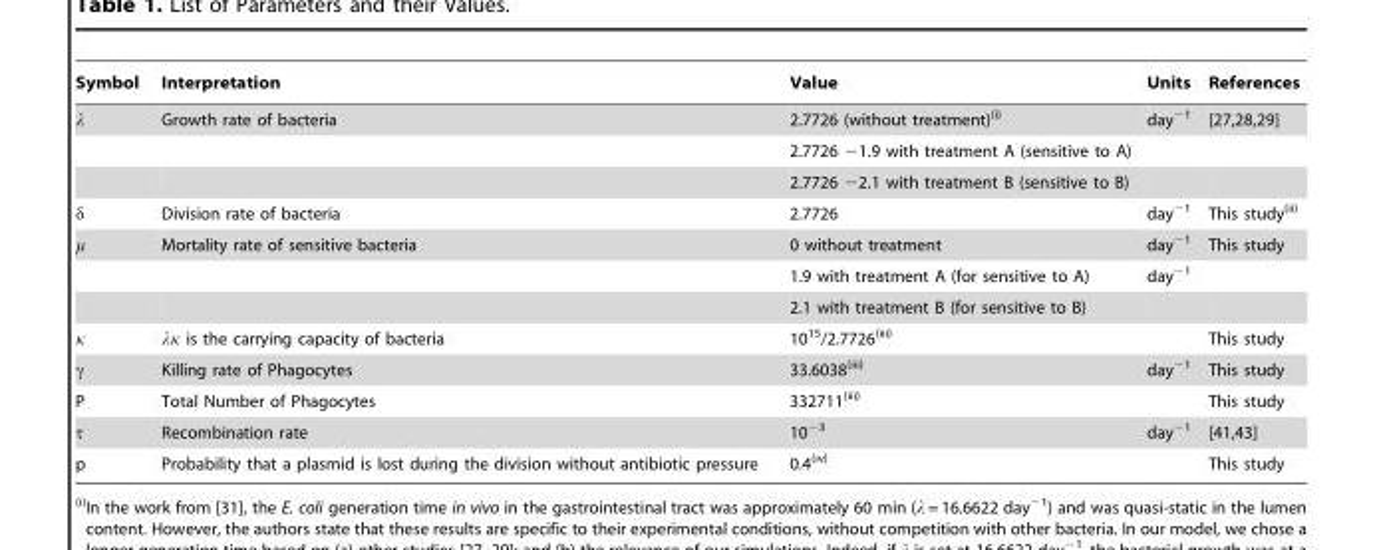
<table><thead><tr><td>Symbol</td><td>Interpretation</td><td>Value</td><td>Units</td><td>References</td></tr></thead><tbody><tr><td rowspan="3">λ</td><td>Growth rate of bacteria</td><td>2.7726 (without treatment)(i)</td><td>day<sup>−1</sup></td><td>[27,28,29]</td></tr><tr><td></td><td>2.7726 −1.9 with treatment A (sensitive to A)</td><td></td><td></td></tr><tr><td></td><td>2.7726 −2.1 with treatment B (sensitive to B)</td><td></td><td></td></tr><tr><td>δ</td><td>Division rate of bacteria</td><td>2.7726</td><td>day<sup>−1</sup></td><td>This study(ii)</td></tr><tr><td rowspan="3">μ</td><td>Mortality rate of sensitive bacteria</td><td>0 without treatment</td><td>day<sup>−1</sup></td><td>This study</td></tr><tr><td></td><td>1.9 with treatment A (for sensitive to A)</td><td>day<sup>−1</sup></td><td></td></tr><tr><td></td><td>2.1 with treatment B (for sensitive to B)</td><td></td><td></td></tr><tr><td>κ</td><td>λκ is the carrying capacity of bacteria</td><td>10<sup>15</sup>/2.7726(iii)</td><td></td><td>This study</td></tr><tr><td>γ</td><td>Killing rate of Phagocytes</td><td>33.6038(iii)</td><td>day<sup>−1</sup></td><td>This study</td></tr><tr><td>P</td><td>Total Number of Phagocytes</td><td>332711(iii)</td><td></td><td>This study</td></tr><tr><td>τ</td><td>Recombination rate</td><td>10<sup>−3</sup></td><td>day<sup>−1</sup></td><td>[41,43]</td></tr><tr><td>p</td><td>Probability that a plasmid is lost during the division without antibiotic pressure</td><td>0.4(iv)</td><td></td><td>This study</td></tr></tbody></table>